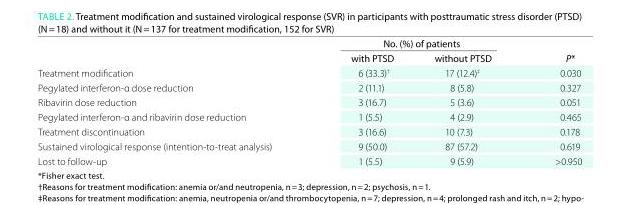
<table><thead><tr><td rowspan="2"></td><td colspan="2">No. (%) of patients</td><td rowspan="2">P*</td></tr><tr><td>with PtSD</td><td>without PtSD</td></tr></thead><tbody><tr><td>Treatment modification</td><td>6 (33.3)<sup>†</sup></td><td>17 (12.4)<sup>‡</sup></td><td>0.030</td></tr><tr><td>Pegylated interferon-α dose reduction</td><td>2 (11.1)</td><td>8 (5.8)</td><td>0.327</td></tr><tr><td>Ribavirin dose reduction</td><td>3 (16.7)</td><td>5 (3.6)</td><td>0.051</td></tr><tr><td>Pegylated interferon-α and ribavirin dose reduction</td><td>1 (5.5)</td><td>4 (2.9)</td><td>0.465</td></tr><tr><td>Treatment discontinuation</td><td>3 (16.6)</td><td>10 (7.3)</td><td>0.178</td></tr><tr><td>Sustained virological response (intention-to-treat analysis)</td><td>9 (50.0)</td><td>87 (57.2)</td><td>0.619</td></tr><tr><td>Lost to follow-up</td><td>1 (5.5)</td><td>9 (5.9)</td><td>&gt;0.950</td></tr></tbody></table>